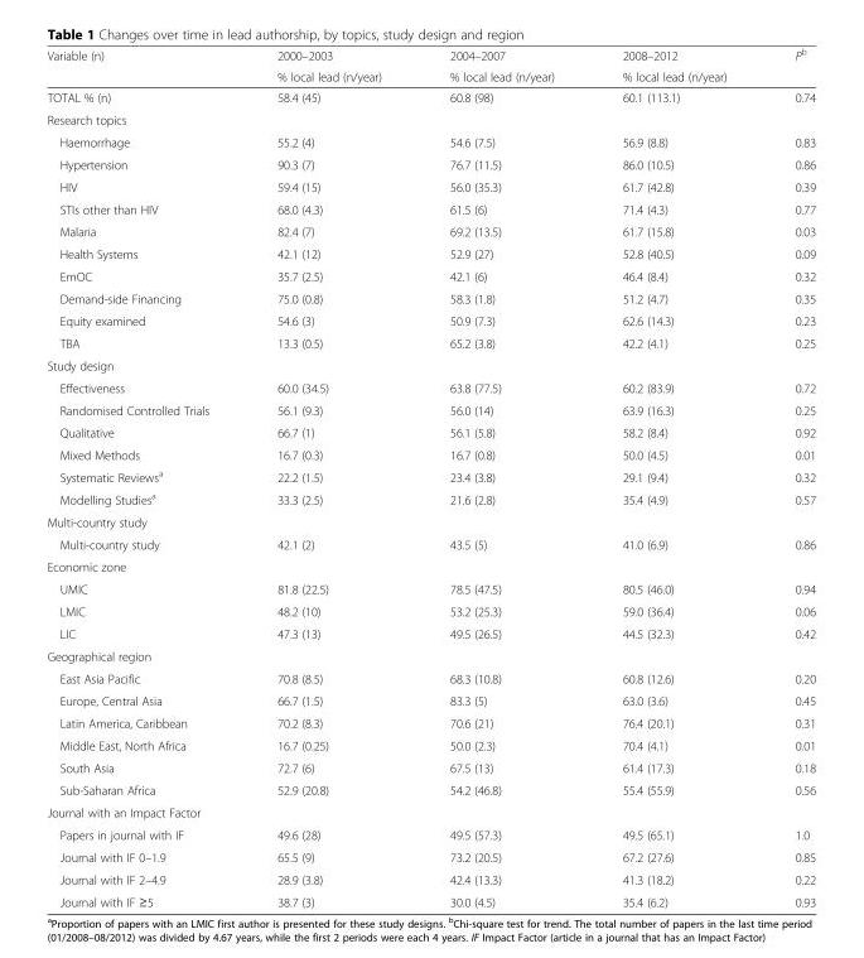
<table><thead><tr><td rowspan="2">Variable (n)</td><td rowspan="2">2000–2003 % local lead (n/year)</td><td rowspan="2">2004–2007 % local lead (n/year)</td><td rowspan="2">2008–2012 % local lead (n/year)</td><td rowspan="2">P<sup>b</sup></td></tr><tr></tr></thead><tbody><tr><td>TOTAL % (n)</td><td>58.4 (45)</td><td>60.8 (98)</td><td>60.1 (113.1)</td><td>0.74</td></tr><tr><td colspan="5">Research topics</td></tr><tr><td>Haemorrhage</td><td>55.2 (4)</td><td>54.6 (7.5)</td><td>56.9 (8.8)</td><td>0.83</td></tr><tr><td>Hypertension</td><td>90.3 (7)</td><td>76.7 (11.5)</td><td>86.0 (10.5)</td><td>0.86</td></tr><tr><td>HIV</td><td>59.4 (15)</td><td>56.0 (35.3)</td><td>61.7 (42.8)</td><td>0.39</td></tr><tr><td>STIs other than HIV</td><td>68.0 (4.3)</td><td>61.5 (6)</td><td>71.4 (4.3)</td><td>0.77</td></tr><tr><td>Malaria</td><td>82.4 (7)</td><td>69.2 (13.5)</td><td>61.7 (15.8)</td><td>0.03</td></tr><tr><td>Health Systems</td><td>42.1 (12)</td><td>52.9 (27)</td><td>52.8 (40.5)</td><td>0.09</td></tr><tr><td>EmOC</td><td>35.7 (2.5)</td><td>42.1 (6)</td><td>46.4 (8.4)</td><td>0.32</td></tr><tr><td>Demand-side Financing</td><td>75.0 (0.8)</td><td>58.3 (1.8)</td><td>51.2 (4.7)</td><td>0.35</td></tr><tr><td>Equity examined</td><td>54.6 (3)</td><td>50.9 (7.3)</td><td>62.6 (14.3)</td><td>0.23</td></tr><tr><td>TBA</td><td>13.3 (0.5)</td><td>65.2 (3.8)</td><td>42.2 (4.1)</td><td>0.25</td></tr><tr><td colspan="5">Study design</td></tr><tr><td>Effectiveness</td><td>60.0 (34.5)</td><td>63.8 (77.5)</td><td>60.2 (83.9)</td><td>0.72</td></tr><tr><td>Randomised Controlled Trials</td><td>56.1 (9.3)</td><td>56.0 (14)</td><td>63.9 (16.3)</td><td>0.25</td></tr><tr><td>Qualitative</td><td>66.7 (1)</td><td>56.1 (5.8)</td><td>58.2 (8.4)</td><td>0.92</td></tr><tr><td>Mixed Methods</td><td>16.7 (0.3)</td><td>16.7 (0.8)</td><td>50.0 (4.5)</td><td>0.01</td></tr><tr><td>Systematic Reviews<sup>a</sup></td><td>22.2 (1.5)</td><td>23.4 (3.8)</td><td>29.1 (9.4)</td><td>0.32</td></tr><tr><td>Modelling Studies<sup>a</sup></td><td>33.3 (2.5)</td><td>21.6 (2.8)</td><td>35.4 (4.9)</td><td>0.57</td></tr><tr><td colspan="5">Multi-country study</td></tr><tr><td>Multi-country study</td><td>42.1 (2)</td><td>43.5 (5)</td><td>41.0 (6.9)</td><td>0.86</td></tr><tr><td colspan="5">Economic zone</td></tr><tr><td>UMIC</td><td>81.8 (22.5)</td><td>78.5 (47.5)</td><td>80.5 (46.0)</td><td>0.94</td></tr><tr><td>LMIC</td><td>48.2 (10)</td><td>53.2 (25.3)</td><td>59.0 (36.4)</td><td>0.06</td></tr><tr><td>LIC</td><td>47.3 (13)</td><td>49.5 (26.5)</td><td>44.5 (32.3)</td><td>0.42</td></tr><tr><td colspan="5">Geographical region</td></tr><tr><td>East Asia Pacific</td><td>70.8 (8.5)</td><td>68.3 (10.8)</td><td>60.8 (12.6)</td><td>0.20</td></tr><tr><td>Europe, Central Asia</td><td>66.7 (1.5)</td><td>83.3 (5)</td><td>63.0 (3.6)</td><td>0.45</td></tr><tr><td>Latin America, Caribbean</td><td>70.2 (8.3)</td><td>70.6 (21)</td><td>76.4 (20.1)</td><td>0.31</td></tr><tr><td>Middle East, North Africa</td><td>16.7 (0.25)</td><td>50.0 (2.3)</td><td>70.4 (4.1)</td><td>0.01</td></tr><tr><td>South Asia</td><td>72.7 (6)</td><td>67.5 (13)</td><td>61.4 (17.3)</td><td>0.18</td></tr><tr><td>Sub-Saharan Africa</td><td>52.9 (20.8)</td><td>54.2 (46.8)</td><td>55.4 (55.9)</td><td>0.56</td></tr><tr><td colspan="5">Journal with an Impact Factor</td></tr><tr><td>Papers in journal with IF</td><td>49.6 (28)</td><td>49.5 (57.3)</td><td>49.5 (65.1)</td><td>1.0</td></tr><tr><td>Journal with IF 0–1.9</td><td>65.5 (9)</td><td>73.2 (20.5)</td><td>67.2 (27.6)</td><td>0.85</td></tr><tr><td>Journal with IF 2–4.9</td><td>28.9 (3.8)</td><td>42.4 (13.3)</td><td>41.3 (18.2)</td><td>0.22</td></tr><tr><td>Journal with IF ≥5</td><td>38.7 (3)</td><td>30.0 (4.5)</td><td>35.4 (6.2)</td><td>0.93</td></tr></tbody></table>